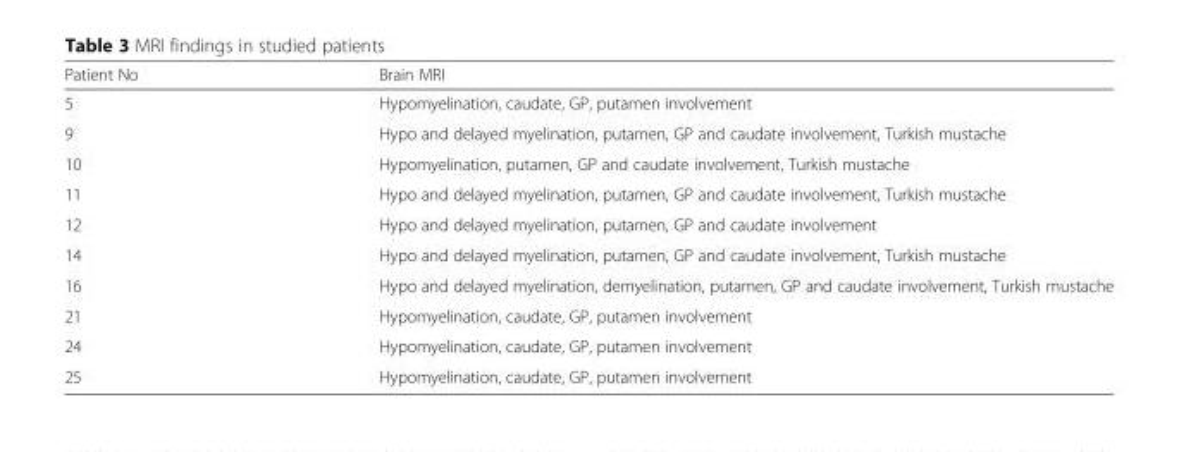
<table><thead><tr><td>Patient No</td><td>Brain MRI</td></tr></thead><tbody><tr><td>5</td><td>Hypomyelination, caudate, GP, putamen involvement</td></tr><tr><td>9</td><td>Hypo and delayed myelination, putamen, GP and caudate involvement, Turkish mustache</td></tr><tr><td>10</td><td>Hypomyelination, putamen, GP and caudate involvement, Turkish mustache</td></tr><tr><td>11</td><td>Hypo and delayed myelination, putamen, GP and caudate involvement, Turkish mustache</td></tr><tr><td>12</td><td>Hypo and delayed myelination, putamen, GP and caudate involvement</td></tr><tr><td>14</td><td>Hypo and delayed myelination, putamen, GP and caudate involvement, Turkish mustache</td></tr><tr><td>16</td><td>Hypo and delayed myelination, demyelination, putamen, GP and caudate involvement, Turkish mustache</td></tr><tr><td>21</td><td>Hypomyelination, caudate, GP, putamen involvement</td></tr><tr><td>24</td><td>Hypomyelination, caudate, GP, putamen involvement</td></tr><tr><td>25</td><td>Hypomyelination, caudate, GP, putamen involvement</td></tr></tbody></table>